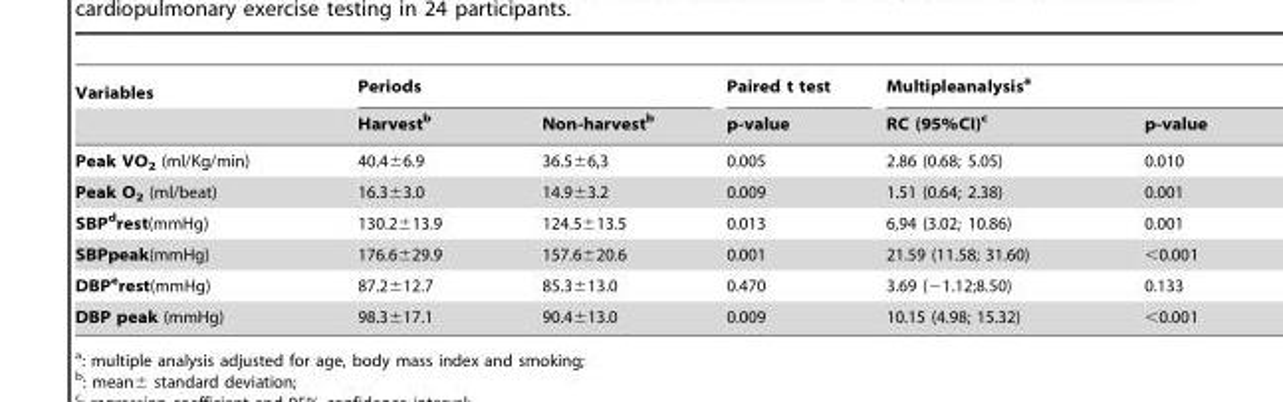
<table><thead><tr><td rowspan="2">Variables</td><td colspan="2">Periods</td><td rowspan="2">Paired t test p-value</td><td colspan="2">Multipleanalysis<sup>a</sup></td></tr><tr><td>Harvest<sup>b</sup></td><td>Non-harvest<sup>b</sup></td><td>RC (95%CI)<sup>c</sup></td><td>p-value</td></tr></thead><tbody><tr><td>Peak VO<sub>2</sub> (ml/Kg/min)</td><td>40.4±6.9</td><td>36.5±6,3</td><td>0.005</td><td>2.86 (0.68; 5.05)</td><td>0.010</td></tr><tr><td>Peak O<sub>2</sub> (ml/beat)</td><td>16.3±3.0</td><td>14.9±3.2</td><td>0.009</td><td>1.51 (0.64; 2.38)</td><td>0.001</td></tr><tr><td>SBPdrest(mmHg)</td><td>130.2±13.9</td><td>124.5±13.5</td><td>0.013</td><td>6,94 (3.02; 10.86)</td><td>0.001</td></tr><tr><td>SBPpeak(mmHg)</td><td>176.6±29.9</td><td>157.6±20.6</td><td>0.001</td><td>21.59 (11.58; 31.60)</td><td>&lt;0.001</td></tr><tr><td>DBPerest(mmHg)</td><td>87.2±12.7</td><td>85.3±13.0</td><td>0.470</td><td>3.69 (−1.12;8.50)</td><td>0.133</td></tr><tr><td>DBP peak (mmHg)</td><td>98.3±17.1</td><td>90.4±13.0</td><td>0.009</td><td>10.15 (4.98; 15.32)</td><td>&lt;0.001</td></tr></tbody></table>